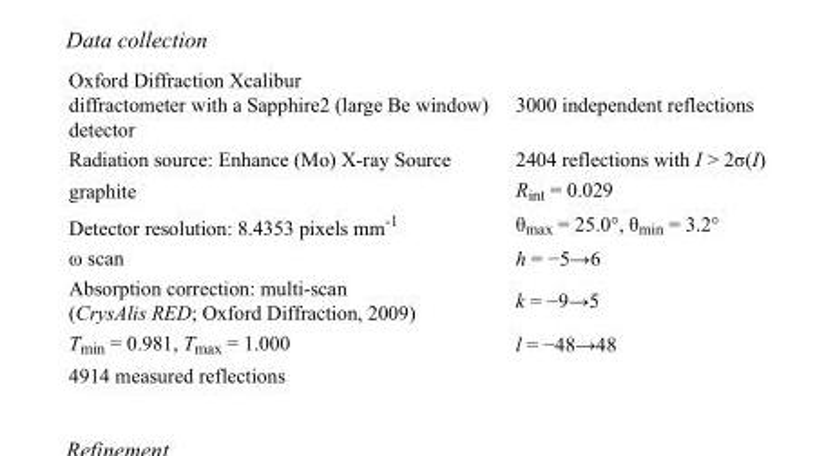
<table><tbody><tr><td>Oxford Diffraction Xcalibur diffractometer with a Sapphire2 (large Be window) detector</td><td>3000 independent reflections</td></tr><tr><td>Radiation source: Enhance (Mo) X-ray Source</td><td>2404 reflections with I &gt; 2σ(I)</td></tr><tr><td>graphite</td><td>R<sub>int</sub> = 0.029</td></tr><tr><td>Detector resolution: 8.4353 pixels mm<sup>-1</sup></td><td>θ<sub>max</sub> = 25.0°, θ<sub>min</sub> = 3.2°</td></tr><tr><td>ω scan</td><td>h = −5→6</td></tr><tr><td>Absorption correction: multi-scan (CrysAlis RED; Oxford Diffraction, 2009)</td><td>k = −9→5</td></tr><tr><td>T<sub>min</sub> = 0.981, T<sub>max</sub> = 1.000</td><td>l = −48→48</td></tr><tr><td>4914 measured reflections</td><td></td></tr></tbody></table>